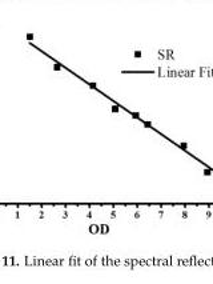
<table><thead><tr><td>OD</td><td>SR</td></tr></thead><tbody><tr><td>1.50</td><td>94.83</td></tr><tr><td>2.64</td><td>77.49</td></tr><tr><td>4.14</td><td>67.05</td></tr><tr><td>5.07</td><td>53.87</td></tr><tr><td>5.93</td><td>50.21</td></tr><tr><td>6.43</td><td>45.06</td></tr><tr><td>7.93</td><td>33.02</td></tr><tr><td>8.93</td><td>18.05</td></tr><tr><td>9.87</td><td>15.09</td></tr></tbody></table>